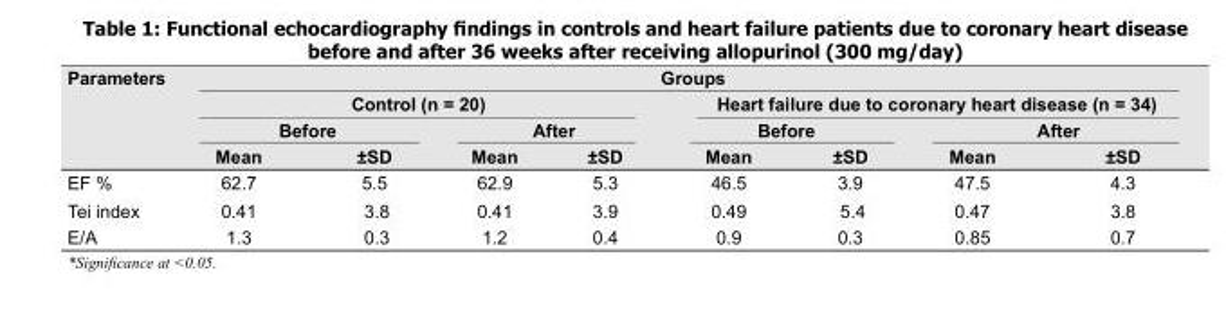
<table><thead><tr><td rowspan="4">Parameters</td><td colspan="8">Groups</td></tr><tr><td colspan="4">Control (n = 20)</td><td colspan="4">Heart failure due to coronary heart disease (n = 34)</td></tr><tr><td colspan="2">Before</td><td colspan="2">After</td><td colspan="2">Before</td><td colspan="2">After</td></tr><tr><td>Mean</td><td>±SD</td><td>Mean</td><td>±SD</td><td>Mean</td><td>±SD</td><td>Mean</td><td>±SD</td></tr></thead><tbody><tr><td>EF %</td><td>62.7</td><td>5.5</td><td>62.9</td><td>5.3</td><td>46.5</td><td>3.9</td><td>47.5</td><td>4.3</td></tr><tr><td>Tei index</td><td>0.41</td><td>3.8</td><td>0.41</td><td>3.9</td><td>0.49</td><td>5.4</td><td>0.47</td><td>3.8</td></tr><tr><td>E/A</td><td>1.3</td><td>0.3</td><td>1.2</td><td>0.4</td><td>0.9</td><td>0.3</td><td>0.85</td><td>0.7</td></tr></tbody></table>